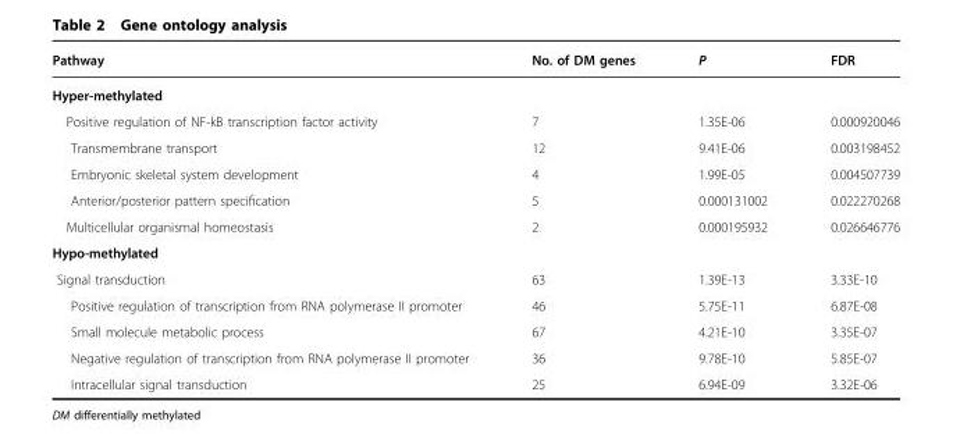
<table><thead><tr><td>Pathway</td><td>No. of DM genes</td><td>P</td><td>FDR</td></tr></thead><tbody><tr><td colspan="4">Hyper-methylated</td></tr><tr><td>Positive regulation of NF-kB transcription factor activity</td><td>7</td><td>1.35E-06</td><td>0.000920046</td></tr><tr><td>Transmembrane transport</td><td>12</td><td>9.41E-06</td><td>0.003198452</td></tr><tr><td>Embryonic skeletal system development</td><td>4</td><td>1.99E-05</td><td>0.004507739</td></tr><tr><td>Anterior/posterior pattern specification</td><td>5</td><td>0.000131002</td><td>0.022270268</td></tr><tr><td>Multicellular organismal homeostasis</td><td>2</td><td>0.000195932</td><td>0.026646776</td></tr><tr><td colspan="4">Hypo-methylated</td></tr><tr><td>Signal transduction</td><td>63</td><td>1.39E-13</td><td>3.33E-10</td></tr><tr><td>Positive regulation of transcription from RNA polymerase II promoter</td><td>46</td><td>5.75E-11</td><td>6.87E-08</td></tr><tr><td>Small molecule metabolic process</td><td>67</td><td>4.21E-10</td><td>3.35E-07</td></tr><tr><td>Negative regulation of transcription from RNA polymerase II promoter</td><td>36</td><td>9.78E-10</td><td>5.85E-07</td></tr><tr><td>Intracellular signal transduction</td><td>25</td><td>6.94E-09</td><td>3.32E-06</td></tr></tbody></table>